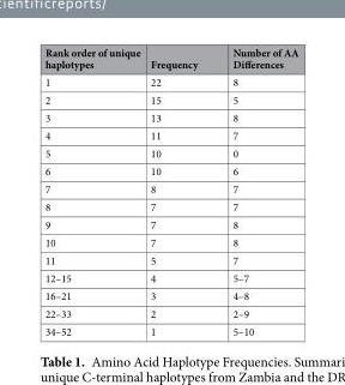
<table><thead><tr><td>Rank order of unique haplotypes</td><td>Frequency</td><td>Number of AA Differences</td></tr></thead><tbody><tr><td>1</td><td>22</td><td>8</td></tr><tr><td>2</td><td>15</td><td>5</td></tr><tr><td>3</td><td>13</td><td>8</td></tr><tr><td>4</td><td>11</td><td>7</td></tr><tr><td>5</td><td>10</td><td>0</td></tr><tr><td>6</td><td>10</td><td>6</td></tr><tr><td>7</td><td>8</td><td>7</td></tr><tr><td>8</td><td>7</td><td>7</td></tr><tr><td>9</td><td>7</td><td>8</td></tr><tr><td>10</td><td>7</td><td>8</td></tr><tr><td>11</td><td>5</td><td>7</td></tr><tr><td>12–15</td><td>4</td><td>5–7</td></tr><tr><td>16–21</td><td>3</td><td>4–8</td></tr><tr><td>22–33</td><td>2</td><td>2–9</td></tr><tr><td>34–52</td><td>1</td><td>5–10</td></tr></tbody></table>